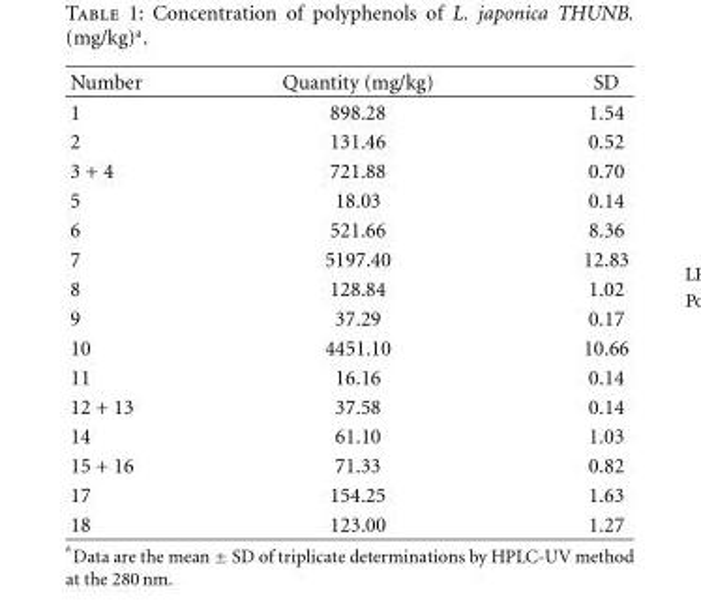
<table><thead><tr><td>Number</td><td>Quantity (mg/kg)</td><td>SD</td></tr></thead><tbody><tr><td>1</td><td>898.28</td><td>1.54</td></tr><tr><td>2</td><td>131.46</td><td>0.52</td></tr><tr><td>3 + 4</td><td>721.88</td><td>0.70</td></tr><tr><td>5</td><td>18.03</td><td>0.14</td></tr><tr><td>6</td><td>521.66</td><td>8.36</td></tr><tr><td>7</td><td>5197.40</td><td>12.83</td></tr><tr><td>8</td><td>128.84</td><td>1.02</td></tr><tr><td>9</td><td>37.29</td><td>0.17</td></tr><tr><td>10</td><td>4451.10</td><td>10.66</td></tr><tr><td>11</td><td>16.16</td><td>0.14</td></tr><tr><td>12 + 13</td><td>37.58</td><td>0.14</td></tr><tr><td>14</td><td>61.10</td><td>1.03</td></tr><tr><td>15 + 16</td><td>71.33</td><td>0.82</td></tr><tr><td>17</td><td>154.25</td><td>1.63</td></tr><tr><td>18</td><td>123.00</td><td>1.27</td></tr></tbody></table>